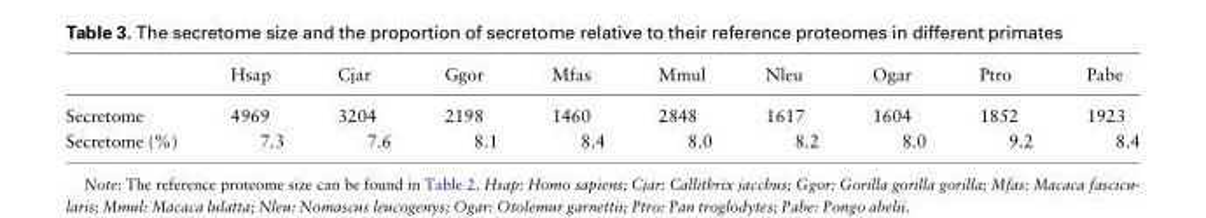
<table><thead><tr><td></td><td>Hsap</td><td>Cjar</td><td>Ggor</td><td>Mfas</td><td>Mmul</td><td>Nleu</td><td>Ogar</td><td>Ptro</td><td>Pabe</td></tr></thead><tbody><tr><td>Secretome</td><td>4969</td><td>3204</td><td>2198</td><td>1460</td><td>2848</td><td>1617</td><td>1604</td><td>1852</td><td>1923</td></tr><tr><td>Secretome (%)</td><td>7.3</td><td>7.6</td><td>8.1</td><td>8.4</td><td>8.0</td><td>8.2</td><td>8.0</td><td>9.2</td><td>8.4</td></tr></tbody></table>